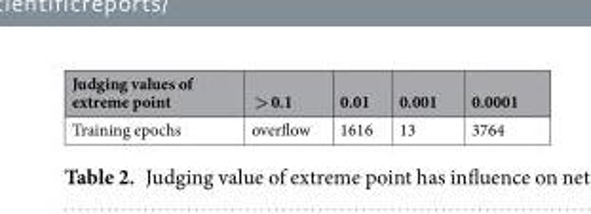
<table><thead><tr><td>Judging values of extreme point</td><td>&gt; 0.1</td><td>0.01</td><td>0.001</td><td>0.0001</td></tr></thead><tbody><tr><td>Training epochs</td><td>overflow</td><td>1616</td><td>13</td><td>3764</td></tr></tbody></table>